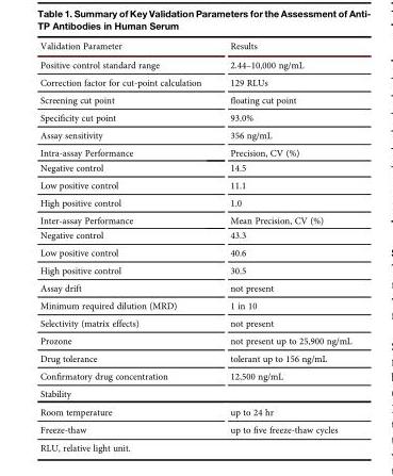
<table><thead><tr><td>Validation Parameter</td><td>Results</td></tr></thead><tbody><tr><td>Positive control standard range</td><td>2.44–10,000 ng/mL</td></tr><tr><td>Correction factor for cut-point calculation</td><td>129 RLUs</td></tr><tr><td>Screening cut point</td><td>floating cut point</td></tr><tr><td>Specificity cut point</td><td>93.0%</td></tr><tr><td>Assay sensitivity</td><td>356 ng/mL</td></tr><tr><td>Intra-assay Performance</td><td>Precision, CV (%)</td></tr><tr><td>Negative control</td><td>14.5</td></tr><tr><td>Low positive control</td><td>11.1</td></tr><tr><td>High positive control</td><td>1.0</td></tr><tr><td>Inter-assay Performance</td><td>Mean Precision, CV (%)</td></tr><tr><td>Negative control</td><td>43.3</td></tr><tr><td>Low positive control</td><td>40.6</td></tr><tr><td>High positive control</td><td>30.5</td></tr><tr><td>Assay drift</td><td>not present</td></tr><tr><td>Minimum required dilution (MRD)</td><td>1 in 10</td></tr><tr><td>Selectivity (matrix effects)</td><td>not present</td></tr><tr><td>Prozone</td><td>not present up to 25,900 ng/mL</td></tr><tr><td>Drug tolerance</td><td>tolerant up to 156 ng/mL</td></tr><tr><td>Confirmatory drug concentration</td><td>12,500 ng/mL</td></tr><tr><td colspan="2">Stability</td></tr><tr><td>Room temperature</td><td>up to 24 hr</td></tr><tr><td>Freeze-thaw</td><td>up to five freeze-thaw cycles</td></tr></tbody></table>